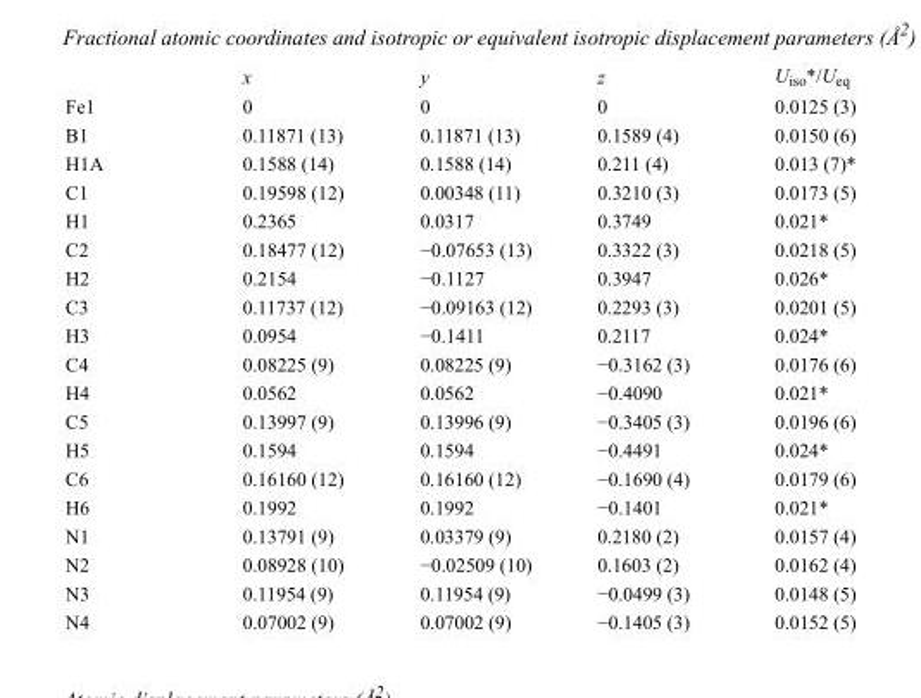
<table><thead><tr><td></td><td>x</td><td>y</td><td>z</td><td>U<sub>iso</sub>*/U<sub>eq</sub></td></tr></thead><tbody><tr><td>Fe1</td><td>0</td><td>0</td><td>0</td><td>0.0125 (3)</td></tr><tr><td>B1</td><td>0.11871 (13)</td><td>0.11871 (13)</td><td>0.1589 (4)</td><td>0.0150 (6)</td></tr><tr><td>H1A</td><td>0.1588 (14)</td><td>0.1588 (14)</td><td>0.211 (4)</td><td>0.013 (7)*</td></tr><tr><td>C1</td><td>0.19598 (12)</td><td>0.00348 (11)</td><td>0.3210 (3)</td><td>0.0173 (5)</td></tr><tr><td>H1</td><td>0.2365</td><td>0.0317</td><td>0.3749</td><td>0.021*</td></tr><tr><td>C2</td><td>0.18477 (12)</td><td>−0.07653 (13)</td><td>0.3322 (3)</td><td>0.0218 (5)</td></tr><tr><td>H2</td><td>0.2154</td><td>−0.1127</td><td>0.3947</td><td>0.026*</td></tr><tr><td>C3</td><td>0.11737 (12)</td><td>−0.09163 (12)</td><td>0.2293 (3)</td><td>0.0201 (5)</td></tr><tr><td>H3</td><td>0.0954</td><td>−0.1411</td><td>0.2117</td><td>0.024*</td></tr><tr><td>C4</td><td>0.08225 (9)</td><td>0.08225 (9)</td><td>−0.3162 (3)</td><td>0.0176 (6)</td></tr><tr><td>H4</td><td>0.0562</td><td>0.0562</td><td>−0.4090</td><td>0.021*</td></tr><tr><td>C5</td><td>0.13997 (9)</td><td>0.13996 (9)</td><td>−0.3405 (3)</td><td>0.0196 (6)</td></tr><tr><td>H5</td><td>0.1594</td><td>0.1594</td><td>−0.4491</td><td>0.024*</td></tr><tr><td>C6</td><td>0.16160 (12)</td><td>0.16160 (12)</td><td>−0.1690 (4)</td><td>0.0179 (6)</td></tr><tr><td>H6</td><td>0.1992</td><td>0.1992</td><td>−0.1401</td><td>0.021*</td></tr><tr><td>N1</td><td>0.13791 (9)</td><td>0.03379 (9)</td><td>0.2180 (2)</td><td>0.0157 (4)</td></tr><tr><td>N2</td><td>0.08928 (10)</td><td>−0.02509 (10)</td><td>0.1603 (2)</td><td>0.0162 (4)</td></tr><tr><td>N3</td><td>0.11954 (9)</td><td>0.11954 (9)</td><td>−0.0499 (3)</td><td>0.0148 (5)</td></tr><tr><td>N4</td><td>0.07002 (9)</td><td>0.07002 (9)</td><td>−0.1405 (3)</td><td>0.0152 (5)</td></tr></tbody></table>